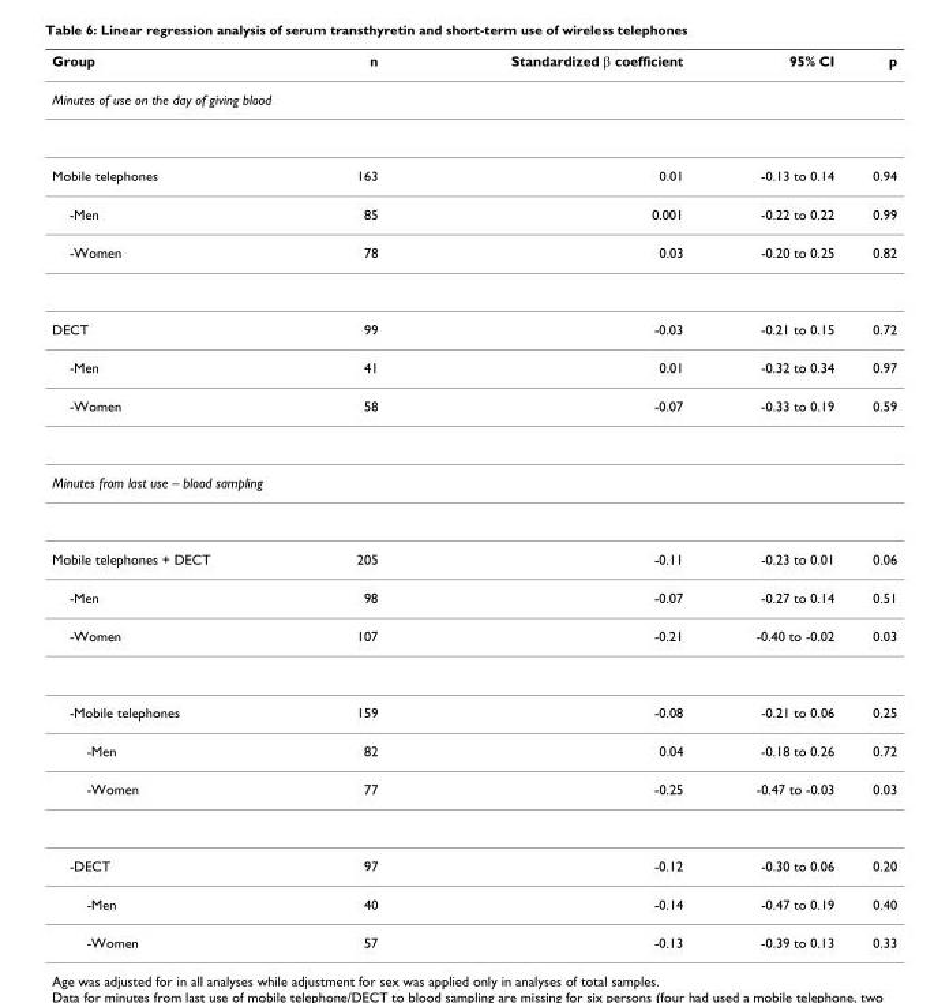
<table><thead><tr><td>Group</td><td>n</td><td>Standardized β coefficient</td><td>95% CI</td><td>p</td></tr></thead><tbody><tr><td colspan="5">Minutes of use on the day of giving blood</td></tr><tr><td>Mobile telephones</td><td>163</td><td>0.01</td><td>-0.13 to 0.14</td><td>0.94</td></tr><tr><td>-Men</td><td>85</td><td>0.001</td><td>-0.22 to 0.22</td><td>0.99</td></tr><tr><td>-Women</td><td>78</td><td>0.03</td><td>-0.20 to 0.25</td><td>0.82</td></tr><tr><td>DECT</td><td>99</td><td>-0.03</td><td>-0.21 to 0.15</td><td>0.72</td></tr><tr><td>-Men</td><td>41</td><td>0.01</td><td>-0.32 to 0.34</td><td>0.97</td></tr><tr><td>-Women</td><td>58</td><td>-0.07</td><td>-0.33 to 0.19</td><td>0.59</td></tr><tr><td colspan="5">Minutes from last use – blood sampling</td></tr><tr><td>Mobile telephones + DECT</td><td>205</td><td>-0.11</td><td>-0.23 to 0.01</td><td>0.06</td></tr><tr><td>-Men</td><td>98</td><td>-0.07</td><td>-0.27 to 0.14</td><td>0.51</td></tr><tr><td>-Women</td><td>107</td><td>-0.21</td><td>-0.40 to -0.02</td><td>0.03</td></tr><tr><td>-Mobile telephones</td><td>159</td><td>-0.08</td><td>-0.21 to 0.06</td><td>0.25</td></tr><tr><td>-Men</td><td>82</td><td>0.04</td><td>-0.18 to 0.26</td><td>0.72</td></tr><tr><td>-Women</td><td>77</td><td>-0.25</td><td>-0.47 to -0.03</td><td>0.03</td></tr><tr><td>-DECT</td><td>97</td><td>-0.12</td><td>-0.30 to 0.06</td><td>0.20</td></tr><tr><td>-Men</td><td>40</td><td>-0.14</td><td>-0.47 to 0.19</td><td>0.40</td></tr><tr><td>-Women</td><td>57</td><td>-0.13</td><td>-0.39 to 0.13</td><td>0.33</td></tr></tbody></table>